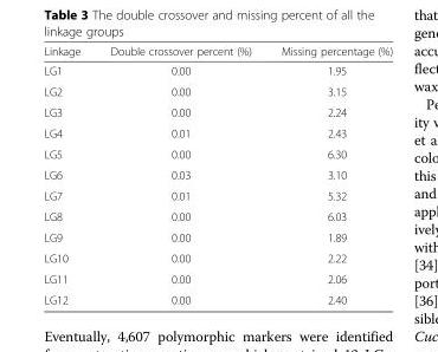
<table><thead><tr><td>Linkage</td><td>Double crossover percent (%)</td><td>Missing percentage (%)</td></tr></thead><tbody><tr><td>LG1</td><td>0.00</td><td>1.95</td></tr><tr><td>LG2</td><td>0.00</td><td>3.15</td></tr><tr><td>LG3</td><td>0.00</td><td>2.24</td></tr><tr><td>LG4</td><td>0.01</td><td>2.43</td></tr><tr><td>LG5</td><td>0.00</td><td>6.30</td></tr><tr><td>LG6</td><td>0.03</td><td>3.10</td></tr><tr><td>LG7</td><td>0.01</td><td>5.32</td></tr><tr><td>LG8</td><td>0.00</td><td>6.03</td></tr><tr><td>LG9</td><td>0.00</td><td>1.89</td></tr><tr><td>LG10</td><td>0.00</td><td>2.22</td></tr><tr><td>LG11</td><td>0.00</td><td>2.06</td></tr><tr><td>LG12</td><td>0.00</td><td>2.40</td></tr></tbody></table>